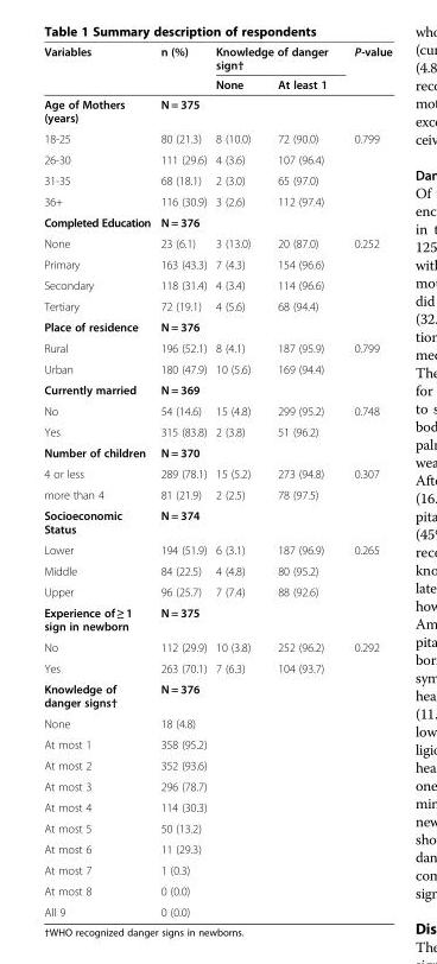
<table><thead><tr><td rowspan="2">Variables</td><td rowspan="2">n (%)</td><td colspan="2">Knowledge of danger sign†</td><td rowspan="2">P-value</td></tr><tr><td>None</td><td>At least 1</td></tr></thead><tbody><tr><td>Age of Mothers (years)</td><td>N = 375</td><td></td><td></td><td></td></tr><tr><td>18-25</td><td>80 (21.3)</td><td>8 (10.0)</td><td>72 (90.0)</td><td>0.799</td></tr><tr><td>26-30</td><td>111 (29.6)</td><td>4 (3.6)</td><td>107 (96.4)</td><td></td></tr><tr><td>31-35</td><td>68 (18.1)</td><td>2 (3.0)</td><td>65 (97.0)</td><td></td></tr><tr><td>36+</td><td>116 (30.9)</td><td>3 (2.6)</td><td>112 (97.4)</td><td></td></tr><tr><td>Completed Education</td><td>N = 376</td><td></td><td></td><td></td></tr><tr><td>None</td><td>23 (6.1)</td><td>3 (13.0)</td><td>20 (87.0)</td><td>0.252</td></tr><tr><td>Primary</td><td>163 (43.3)</td><td>7 (4.3)</td><td>154 (96.6)</td><td></td></tr><tr><td>Secondary</td><td>118 (31.4)</td><td>4 (3.4)</td><td>114 (96.6)</td><td></td></tr><tr><td>Tertiary</td><td>72 (19.1)</td><td>4 (5.6)</td><td>68 (94.4)</td><td></td></tr><tr><td>Place of residence</td><td>N = 376</td><td></td><td></td><td></td></tr><tr><td>Rural</td><td>196 (52.1)</td><td>8 (4.1)</td><td>187 (95.9)</td><td>0.799</td></tr><tr><td>Urban</td><td>180 (47.9)</td><td>10 (5.6)</td><td>169 (94.4)</td><td></td></tr><tr><td>Currently married</td><td>N = 369</td><td></td><td></td><td></td></tr><tr><td>No</td><td>54 (14.6)</td><td>15 (4.8)</td><td>299 (95.2)</td><td>0.748</td></tr><tr><td>Yes</td><td>315 (83.8)</td><td>2 (3.8)</td><td>51 (96.2)</td><td></td></tr><tr><td>Number of children</td><td>N = 370</td><td></td><td></td><td></td></tr><tr><td>4 or less</td><td>289 (78.1)</td><td>15 (5.2)</td><td>273 (94.8)</td><td>0.307</td></tr><tr><td>more than 4</td><td>81 (21.9)</td><td>2 (2.5)</td><td>78 (97.5)</td><td></td></tr><tr><td>Socioeconomic Status</td><td>N = 374</td><td></td><td></td><td></td></tr><tr><td>Lower</td><td>194 (51.9)</td><td>6 (3.1)</td><td>187 (96.9)</td><td>0.265</td></tr><tr><td>Middle</td><td>84 (22.5)</td><td>4 (4.8)</td><td>80 (95.2)</td><td></td></tr><tr><td>Upper</td><td>96 (25.7)</td><td>7 (7.4)</td><td>88 (92.6)</td><td></td></tr><tr><td>Experience of ≥ 1 sign in newborn</td><td>N = 375</td><td></td><td></td><td></td></tr><tr><td>No</td><td>112 (29.9)</td><td>10 (3.8)</td><td>252 (96.2)</td><td>0.292</td></tr><tr><td>Yes</td><td>263 (70.1)</td><td>7 (6.3)</td><td>104 (93.7)</td><td></td></tr><tr><td>Knowledge of danger signs†</td><td>N = 376</td><td></td><td></td><td></td></tr><tr><td>None</td><td>18 (4.8)</td><td></td><td></td><td></td></tr><tr><td>At most 1</td><td>358 (95.2)</td><td></td><td></td><td></td></tr><tr><td>At most 2</td><td>352 (93.6)</td><td></td><td></td><td></td></tr><tr><td>At most 3</td><td>296 (78.7)</td><td></td><td></td><td></td></tr><tr><td>At most 4</td><td>114 (30.3)</td><td></td><td></td><td></td></tr><tr><td>At most 5</td><td>50 (13.2)</td><td></td><td></td><td></td></tr><tr><td>At most 6</td><td>11 (29.3)</td><td></td><td></td><td></td></tr><tr><td>At most 7</td><td>1 (0.3)</td><td></td><td></td><td></td></tr><tr><td>At most 8</td><td>0 (0.0)</td><td></td><td></td><td></td></tr><tr><td>All 9</td><td>0 (0.0)</td><td></td><td></td><td></td></tr></tbody></table>